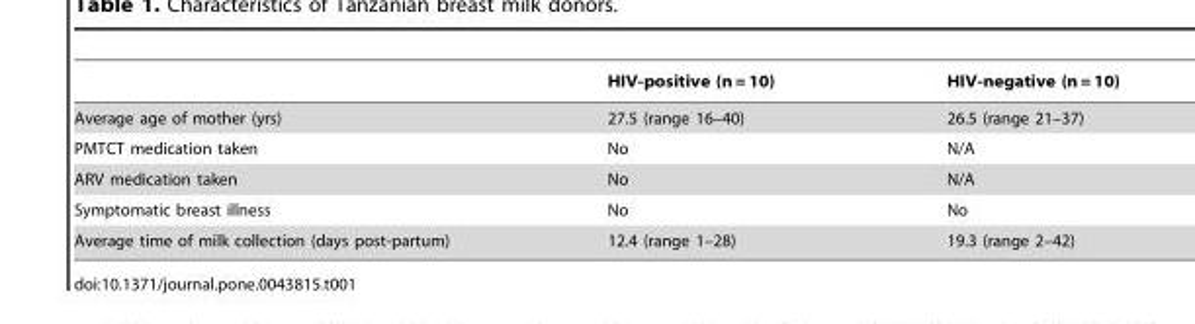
<table><thead><tr><td></td><td>HIV-positive (n = 10)</td><td>HIV-negative (n = 10)</td></tr></thead><tbody><tr><td>Average age of mother (yrs)</td><td>27.5 (range 16–40)</td><td>26.5 (range 21–37)</td></tr><tr><td>PMTCT medication taken</td><td>No</td><td>N/A</td></tr><tr><td>ARV medication taken</td><td>No</td><td>N/A</td></tr><tr><td>Symptomatic breast illness</td><td>No</td><td>No</td></tr><tr><td>Average time of milk collection (days post-partum)</td><td>12.4 (range 1–28)</td><td>19.3 (range 2–42)</td></tr></tbody></table>